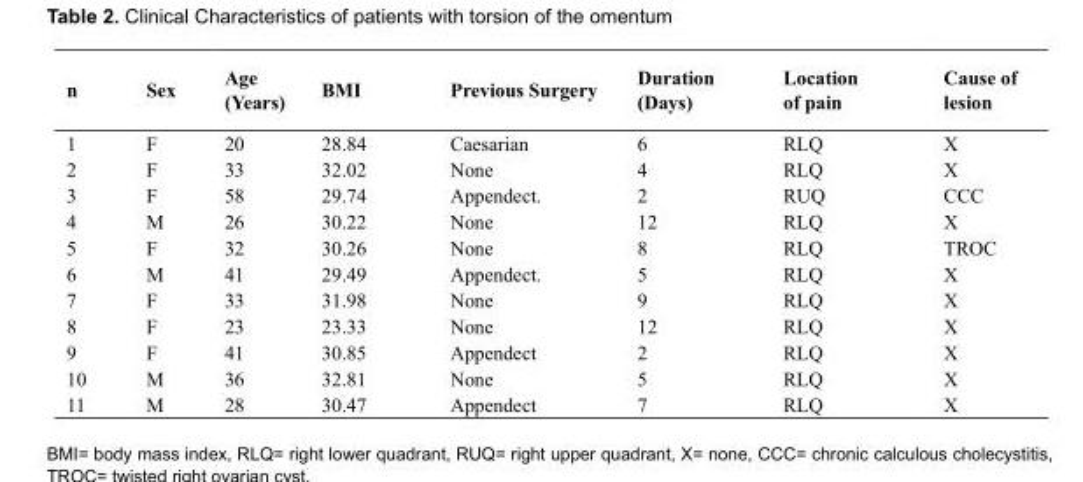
<table><thead><tr><td>n</td><td>Sex</td><td>Age (Years)</td><td>BMI</td><td>Previous Surgery</td><td>Duration (Days)</td><td>Location of pain</td><td>Cause of lesion</td></tr></thead><tbody><tr><td>1</td><td>F</td><td>20</td><td>28.84</td><td>Caesarian</td><td>6</td><td>RLQ</td><td>X</td></tr><tr><td>2</td><td>F</td><td>33</td><td>32.02</td><td>None</td><td>4</td><td>RLQ</td><td>X</td></tr><tr><td>3</td><td>F</td><td>58</td><td>29.74</td><td>Appendect.</td><td>2</td><td>RUQ</td><td>CCC</td></tr><tr><td>4</td><td>M</td><td>26</td><td>30.22</td><td>None</td><td>12</td><td>RLQ</td><td>X</td></tr><tr><td>5</td><td>F</td><td>32</td><td>30.26</td><td>None</td><td>8</td><td>RLQ</td><td>TROC</td></tr><tr><td>6</td><td>M</td><td>41</td><td>29.49</td><td>Appendect.</td><td>5</td><td>RLQ</td><td>X</td></tr><tr><td>7</td><td>F</td><td>33</td><td>31.98</td><td>None</td><td>9</td><td>RLQ</td><td>X</td></tr><tr><td>8</td><td>F</td><td>23</td><td>23.33</td><td>None</td><td>12</td><td>RLQ</td><td>X</td></tr><tr><td>9</td><td>F</td><td>41</td><td>30.85</td><td>Appendect</td><td>2</td><td>RLQ</td><td>X</td></tr><tr><td>10</td><td>M</td><td>36</td><td>32.81</td><td>None</td><td>5</td><td>RLQ</td><td>X</td></tr><tr><td>11</td><td>M</td><td>28</td><td>30.47</td><td>Appendect</td><td>7</td><td>RLQ</td><td>X</td></tr></tbody></table>